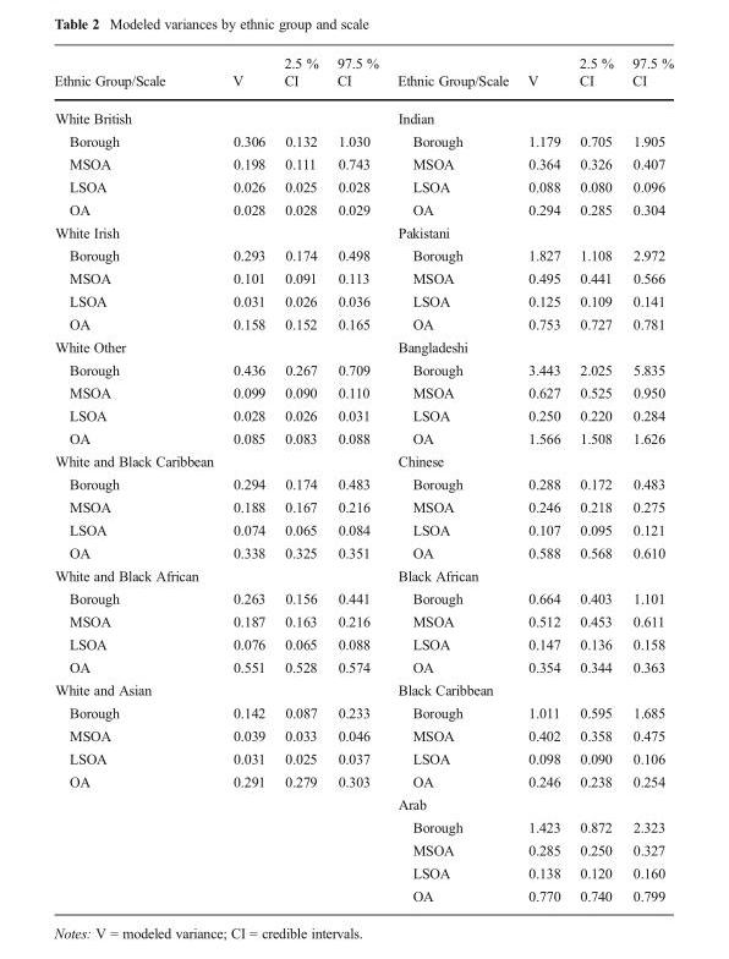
<table><thead><tr><td>Ethnic Group/Scale</td><td>V</td><td>2.5 % CI</td><td>97.5 % CI</td><td>Ethnic Group/Scale</td><td>V</td><td>2.5 % CI</td><td>97.5 % CI</td></tr></thead><tbody><tr><td>White British</td><td></td><td></td><td></td><td>Indian</td><td></td><td></td><td></td></tr><tr><td>Borough</td><td>0.306</td><td>0.132</td><td>1.030</td><td>Borough</td><td>1.179</td><td>0.705</td><td>1.905</td></tr><tr><td>MSOA</td><td>0.198</td><td>0.111</td><td>0.743</td><td>MSOA</td><td>0.364</td><td>0.326</td><td>0.407</td></tr><tr><td>LSOA</td><td>0.026</td><td>0.025</td><td>0.028</td><td>LSOA</td><td>0.088</td><td>0.080</td><td>0.096</td></tr><tr><td>OA</td><td>0.028</td><td>0.028</td><td>0.029</td><td>OA</td><td>0.294</td><td>0.285</td><td>0.304</td></tr><tr><td>White Irish</td><td></td><td></td><td></td><td>Pakistani</td><td></td><td></td><td></td></tr><tr><td>Borough</td><td>0.293</td><td>0.174</td><td>0.498</td><td>Borough</td><td>1.827</td><td>1.108</td><td>2.972</td></tr><tr><td>MSOA</td><td>0.101</td><td>0.091</td><td>0.113</td><td>MSOA</td><td>0.495</td><td>0.441</td><td>0.566</td></tr><tr><td>LSOA</td><td>0.031</td><td>0.026</td><td>0.036</td><td>LSOA</td><td>0.125</td><td>0.109</td><td>0.141</td></tr><tr><td>OA</td><td>0.158</td><td>0.152</td><td>0.165</td><td>OA</td><td>0.753</td><td>0.727</td><td>0.781</td></tr><tr><td>White Other</td><td></td><td></td><td></td><td>Bangladeshi</td><td></td><td></td><td></td></tr><tr><td>Borough</td><td>0.436</td><td>0.267</td><td>0.709</td><td>Borough</td><td>3.443</td><td>2.025</td><td>5.835</td></tr><tr><td>MSOA</td><td>0.099</td><td>0.090</td><td>0.110</td><td>MSOA</td><td>0.627</td><td>0.525</td><td>0.950</td></tr><tr><td>LSOA</td><td>0.028</td><td>0.026</td><td>0.031</td><td>LSOA</td><td>0.250</td><td>0.220</td><td>0.284</td></tr><tr><td>OA</td><td>0.085</td><td>0.083</td><td>0.088</td><td>OA</td><td>1.566</td><td>1.508</td><td>1.626</td></tr><tr><td>White and Black Caribbean</td><td></td><td></td><td></td><td>Chinese</td><td></td><td></td><td></td></tr><tr><td>Borough</td><td>0.294</td><td>0.174</td><td>0.483</td><td>Borough</td><td>0.288</td><td>0.172</td><td>0.483</td></tr><tr><td>MSOA</td><td>0.188</td><td>0.167</td><td>0.216</td><td>MSOA</td><td>0.246</td><td>0.218</td><td>0.275</td></tr><tr><td>LSOA</td><td>0.074</td><td>0.065</td><td>0.084</td><td>LSOA</td><td>0.107</td><td>0.095</td><td>0.121</td></tr><tr><td>OA</td><td>0.338</td><td>0.325</td><td>0.351</td><td>OA</td><td>0.588</td><td>0.568</td><td>0.610</td></tr><tr><td>White and Black African</td><td></td><td></td><td></td><td>Black African</td><td></td><td></td><td></td></tr><tr><td>Borough</td><td>0.263</td><td>0.156</td><td>0.441</td><td>Borough</td><td>0.664</td><td>0.403</td><td>1.101</td></tr><tr><td>MSOA</td><td>0.187</td><td>0.163</td><td>0.216</td><td>MSOA</td><td>0.512</td><td>0.453</td><td>0.611</td></tr><tr><td>LSOA</td><td>0.076</td><td>0.065</td><td>0.088</td><td>LSOA</td><td>0.147</td><td>0.136</td><td>0.158</td></tr><tr><td>OA</td><td>0.551</td><td>0.528</td><td>0.574</td><td>OA</td><td>0.354</td><td>0.344</td><td>0.363</td></tr><tr><td>White and Asian</td><td></td><td></td><td></td><td>Black Caribbean</td><td></td><td></td><td></td></tr><tr><td>Borough</td><td>0.142</td><td>0.087</td><td>0.233</td><td>Borough</td><td>1.011</td><td>0.595</td><td>1.685</td></tr><tr><td>MSOA</td><td>0.039</td><td>0.033</td><td>0.046</td><td>MSOA</td><td>0.402</td><td>0.358</td><td>0.475</td></tr><tr><td>LSOA</td><td>0.031</td><td>0.025</td><td>0.037</td><td>LSOA</td><td>0.098</td><td>0.090</td><td>0.106</td></tr><tr><td rowspan="6">OA</td><td>0.291</td><td>0.279</td><td>0.303</td><td>OA</td><td>0.246</td><td>0.238</td><td>0.254</td></tr><tr><td></td><td></td><td></td><td>Arab</td><td></td><td></td><td></td></tr><tr><td></td><td></td><td></td><td>Borough</td><td>1.423</td><td>0.872</td><td>2.323</td></tr><tr><td></td><td></td><td></td><td>MSOA</td><td>0.285</td><td>0.250</td><td>0.327</td></tr><tr><td></td><td></td><td></td><td>LSOA</td><td>0.138</td><td>0.120</td><td>0.160</td></tr><tr><td></td><td></td><td></td><td>OA</td><td>0.770</td><td>0.740</td><td>0.799</td></tr></tbody></table>